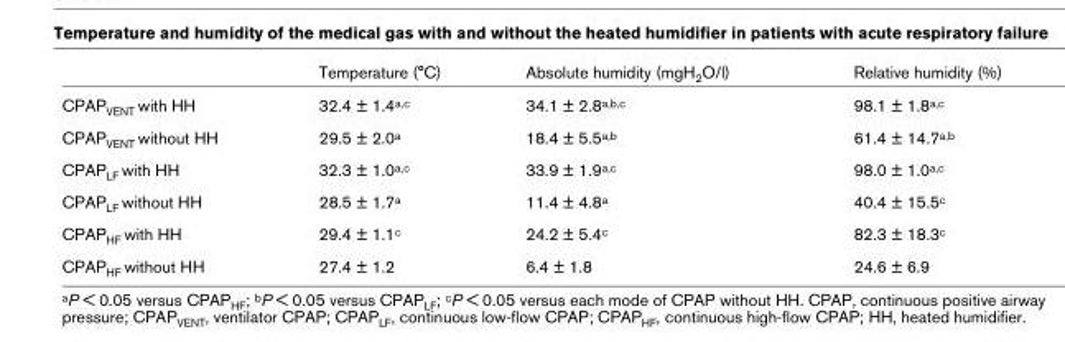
<table><thead><tr><td></td><td>Temperature (°C)</td><td>Absolute humidity (mgH<sub>2</sub>O/l)</td><td>Relative humidity (%)</td></tr></thead><tbody><tr><td>CPAP<sub>VENT</sub> with HH</td><td>32.4 ± 1.4<sup>a,c</sup></td><td>34.1 ± 2.8<sup>a,b,c</sup></td><td>98.1 ± 1.8<sup>a,c</sup></td></tr><tr><td>CPAP<sub>VENT</sub> without HH</td><td>29.5 ± 2.0<sup>a</sup></td><td>18.4 ± 5.5<sup>a,b</sup></td><td>61.4 ± 14.7<sup>a,b</sup></td></tr><tr><td>CPAP<sub>LF</sub> with HH</td><td>32.3 ± 1.0<sup>a,c</sup></td><td>33.9 ± 1.9<sup>a,c</sup></td><td>98.0 ± 1.0<sup>a,c</sup></td></tr><tr><td>CPAP<sub>LF</sub> without HH</td><td>28.5 ± 1.7<sup>a</sup></td><td>11.4 ± 4.8<sup>a</sup></td><td>40.4 ± 15.5<sup>c</sup></td></tr><tr><td>CPAP<sub>HF</sub> with HH</td><td>29.4 ± 1.1<sup>c</sup></td><td>24.2 ± 5.4<sup>c</sup></td><td>82.3 ± 18.3<sup>c</sup></td></tr><tr><td>CPAP<sub>HF</sub> without HH</td><td>27.4 ± 1.2</td><td>6.4 ± 1.8</td><td>24.6 ± 6.9</td></tr></tbody></table>